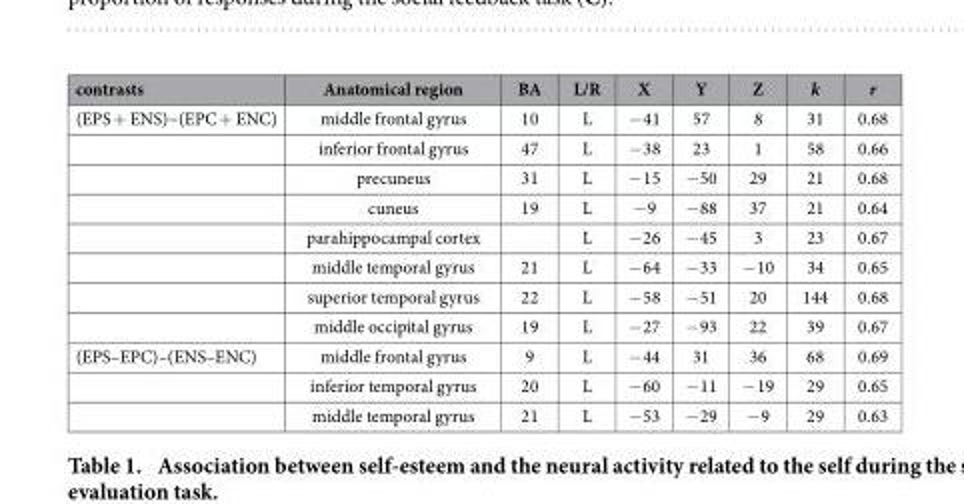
<table><thead><tr><td>contrasts</td><td>Anatomical region</td><td>BA</td><td>L/R</td><td>X</td><td>Y</td><td>Z</td><td>k</td><td>r</td></tr></thead><tbody><tr><td rowspan="8">(EPS + ENS)−(EPC + ENC)</td><td>middle frontal gyrus</td><td>10</td><td>L</td><td>− 41</td><td>57</td><td>8</td><td>31</td><td>0.68</td></tr><tr><td>inferior frontal gyrus</td><td>47</td><td>L</td><td>− 38</td><td>23</td><td>1</td><td>58</td><td>0.66</td></tr><tr><td>precuneus</td><td>31</td><td>L</td><td>− 15</td><td>− 50</td><td>29</td><td>21</td><td>0.68</td></tr><tr><td>cuneus</td><td>19</td><td>L</td><td>− 9</td><td>− 88</td><td>37</td><td>21</td><td>0.64</td></tr><tr><td>parahippocampal cortex</td><td></td><td>L</td><td>− 26</td><td>− 45</td><td>3</td><td>23</td><td>0.67</td></tr><tr><td>middle temporal gyrus</td><td>21</td><td>L</td><td>− 64</td><td>− 33</td><td>− 10</td><td>34</td><td>0.65</td></tr><tr><td>superior temporal gyrus</td><td>22</td><td>L</td><td>− 58</td><td>− 51</td><td>20</td><td>144</td><td>0.68</td></tr><tr><td>middle occipital gyrus</td><td>19</td><td>L</td><td>− 27</td><td>− 93</td><td>22</td><td>39</td><td>0.67</td></tr><tr><td rowspan="3">(EPS–EPC)–(ENS–ENC)</td><td>middle frontal gyrus</td><td>9</td><td>L</td><td>− 44</td><td>31</td><td>36</td><td>68</td><td>0.69</td></tr><tr><td>inferior temporal gyrus</td><td>20</td><td>L</td><td>− 60</td><td>− 11</td><td>− 19</td><td>29</td><td>0.65</td></tr><tr><td>middle temporal gyrus</td><td>21</td><td>L</td><td>− 53</td><td>− 29</td><td>− 9</td><td>29</td><td>0.63</td></tr></tbody></table>